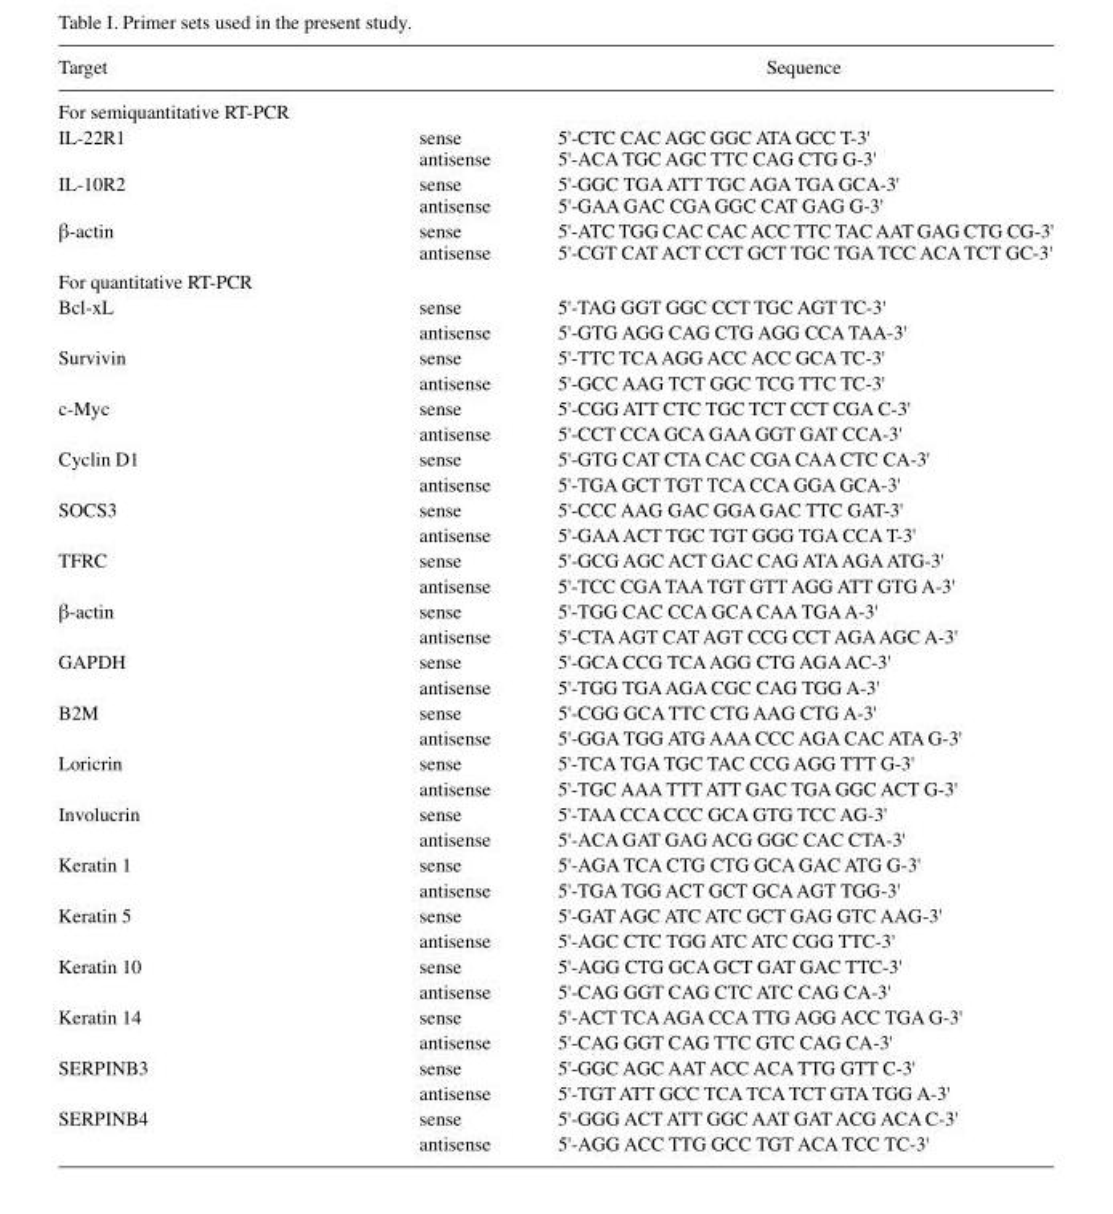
<table><thead><tr><td>Target</td><td></td><td>Sequence</td></tr></thead><tbody><tr><td colspan="3">For semiquantitative RT-PCR</td></tr><tr><td rowspan="2">IL-22R1</td><td>sense</td><td>5&#x27;-CTC CAC AGC GGC ATA GCC T-3&#x27;</td></tr><tr><td>antisense</td><td>5&#x27;-ACA TGC AGC TTC CAG CTG G-3&#x27;</td></tr><tr><td rowspan="2">IL-10R2</td><td>sense</td><td>5&#x27;-GGC TGA ATT TGC AGA TGA GCA-3&#x27;</td></tr><tr><td>antisense</td><td>5&#x27;-GAA GAC CGA GGC CAT GAG G-3&#x27;</td></tr><tr><td rowspan="2">β-actin</td><td>sense</td><td>5&#x27;-ATC TGG CAC CAC ACC TTC TAC AAT GAG CTG CG-3&#x27;</td></tr><tr><td>antisense</td><td>5&#x27;-CGT CAT ACT CCT GCT TGC TGA TCC ACA TCT GC-3&#x27;</td></tr><tr><td colspan="3">For quantitative RT-PCR</td></tr><tr><td rowspan="2">Bcl-xL</td><td>sense</td><td>5&#x27;-TAG GGT GGC CCT TGC AGT TC-3&#x27;</td></tr><tr><td>antisense</td><td>5&#x27;-GTG AGG CAG CTG AGG CCA TAA-3&#x27;</td></tr><tr><td rowspan="2">Survivin</td><td>sense</td><td>5&#x27;-TTC TCA AGG ACC ACC GCA TC-3&#x27;</td></tr><tr><td>antisense</td><td>5&#x27;-GCC AAG TCT GGC TCG TTC TC-3&#x27;</td></tr><tr><td rowspan="2">c-Myc</td><td>sense</td><td>5&#x27;-CGG ATT CTC TGC TCT CCT CGA C-3&#x27;</td></tr><tr><td>antisense</td><td>5&#x27;-CCT CCA GCA GAA GGT GAT CCA-3&#x27;</td></tr><tr><td rowspan="2">Cyclin D1</td><td>sense</td><td>5&#x27;-GTG CAT CTA CAC CGA CAA CTC CA-3&#x27;</td></tr><tr><td>antisense</td><td>5&#x27;-TGA GCT TGT TCA CCA GGA GCA-3&#x27;</td></tr><tr><td rowspan="2">SOCS3</td><td>sense</td><td>5&#x27;-CCC AAG GAC GGA GAC TTC GAT-3&#x27;</td></tr><tr><td>antisense</td><td>5&#x27;-GAA ACT TGC TGT GGG TGA CCA T-3&#x27;</td></tr><tr><td rowspan="2">TFRC</td><td>sense</td><td>5&#x27;-GCG AGC ACT GAC CAG ATA AGA ATG-3&#x27;</td></tr><tr><td>antisense</td><td>5&#x27;-TCC CGA TAA TGT GTT AGG ATT GTG A-3&#x27;</td></tr><tr><td rowspan="2">β-actin</td><td>sense</td><td>5&#x27;-TGG CAC CCA GCA CAA TGA A-3&#x27;</td></tr><tr><td>antisense</td><td>5&#x27;-CTA AGT CAT AGT CCG CCT AGA AGC A-3&#x27;</td></tr><tr><td rowspan="2">GAPDH</td><td>sense</td><td>5&#x27;-GCA CCG TCA AGG CTG AGA AC-3&#x27;</td></tr><tr><td>antisense</td><td>5&#x27;-TGG TGA AGA CGC CAG TGG A-3&#x27;</td></tr><tr><td rowspan="2">B2M</td><td>sense</td><td>5&#x27;-CGG GCA TTC CTG AAG CTG A-3&#x27;</td></tr><tr><td>antisense</td><td>5&#x27;-GGA TGG ATG AAA CCC AGA CAC ATA G-3&#x27;</td></tr><tr><td rowspan="2">Loricrin</td><td>sense</td><td>5&#x27;-TCA TGA TGC TAC CCG AGG TTT G-3&#x27;</td></tr><tr><td>antisense</td><td>5&#x27;-TGC AAA TTT ATT GAC TGA GGC ACT G-3&#x27;</td></tr><tr><td rowspan="2">Involucrin</td><td>sense</td><td>5&#x27;-TAA CCA CCC GCA GTG TCC AG-3&#x27;</td></tr><tr><td>antisense</td><td>5&#x27;-ACA GAT GAG ACG GGC CAC CTA-3&#x27;</td></tr><tr><td rowspan="2">Keratin 1</td><td>sense</td><td>5&#x27;-AGA TCA CTG CTG GCA GAC ATG G-3&#x27;</td></tr><tr><td>antisense</td><td>5&#x27;-TGA TGG ACT GCT GCA AGT TGG-3&#x27;</td></tr><tr><td rowspan="2">Keratin 5</td><td>sense</td><td>5&#x27;-GAT AGC ATC ATC GCT GAG GTC AAG-3&#x27;</td></tr><tr><td>antisense</td><td>5&#x27;-AGC CTC TGG ATC ATC CGG TTC-3&#x27;</td></tr><tr><td rowspan="2">Keratin 10</td><td>sense</td><td>5&#x27;-AGG CTG GCA GCT GAT GAC TTC-3&#x27;</td></tr><tr><td>antisense</td><td>5&#x27;-CAG GGT CAG CTC ATC CAG CA-3&#x27;</td></tr><tr><td rowspan="2">Keratin 14</td><td>sense</td><td>5&#x27;-ACT TCA AGA CCA TTG AGG ACC TGA G-3&#x27;</td></tr><tr><td>antisense</td><td>5&#x27;-CAG GGT CAG TTC GTC CAG CA-3&#x27;</td></tr><tr><td rowspan="2">SERPINB3</td><td>sense</td><td>5&#x27;-GGC AGC AAT ACC ACA TTG GTT C-3&#x27;</td></tr><tr><td>antisense</td><td>5&#x27;-TGT ATT GCC TCA TCA TCT GTA TGG A-3&#x27;</td></tr><tr><td rowspan="2">SERPINB4</td><td>sense</td><td>5&#x27;-GGG ACT ATT GGC AAT GAT ACG ACA C-3&#x27;</td></tr><tr><td>antisense</td><td>5&#x27;-AGG ACC TTG GCC TGT ACA TCC TC-3&#x27;</td></tr></tbody></table>